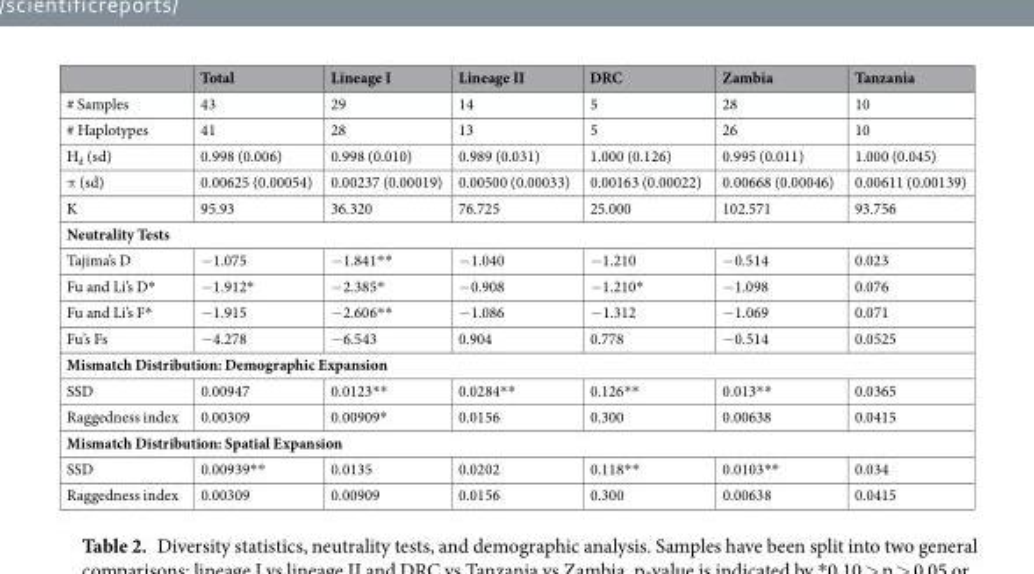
<table><thead><tr><td></td><td>Total</td><td>Lineage I</td><td>Lineage II</td><td>DRC</td><td>Zambia</td><td>Tanzania</td></tr></thead><tbody><tr><td># Samples</td><td>43</td><td>29</td><td>14</td><td>5</td><td>28</td><td>10</td></tr><tr><td># Haplotypes</td><td>41</td><td>28</td><td>13</td><td>5</td><td>26</td><td>10</td></tr><tr><td>H<sub>d</sub> (sd)</td><td>0.998 (0.006)</td><td>0.998 (0.010)</td><td>0.989 (0.031)</td><td>1.000 (0.126)</td><td>0.995 (0.011)</td><td>1.000 (0.045)</td></tr><tr><td>π (sd)</td><td>0.00625 (0.00054)</td><td>0.00237 (0.00019)</td><td>0.00500 (0.00033)</td><td>0.00163 (0.00022)</td><td>0.00668 (0.00046)</td><td>0.00611 (0.00139)</td></tr><tr><td>K</td><td>95.93</td><td>36.320</td><td>76.725</td><td>25.000</td><td>102.571</td><td>93.756</td></tr><tr><td colspan="7">Neutrality Tests</td></tr><tr><td>Tajima’s D</td><td>−1.075</td><td>−1.841**</td><td>−1.040</td><td>−1.210</td><td>−0.514</td><td>0.023</td></tr><tr><td>Fu and Li’s D*</td><td>−1.912*</td><td>−2.385*</td><td>−0.908</td><td>−1.210*</td><td>−1.098</td><td>0.076</td></tr><tr><td>Fu and Li’s F*</td><td>−1.915</td><td>−2.606**</td><td>−1.086</td><td>−1.312</td><td>−1.069</td><td>0.071</td></tr><tr><td>Fu’s Fs</td><td>−4.278</td><td>−6.543</td><td>0.904</td><td>0.778</td><td>−0.514</td><td>0.0525</td></tr><tr><td colspan="7">Mismatch Distribution: Demographic Expansion</td></tr><tr><td>SSD</td><td>0.00947</td><td>0.0123**</td><td>0.0284**</td><td>0.126**</td><td>0.013**</td><td>0.0365</td></tr><tr><td>Raggedness index</td><td>0.00309</td><td>0.00909*</td><td>0.0156</td><td>0.300</td><td>0.00638</td><td>0.0415</td></tr><tr><td colspan="7">Mismatch Distribution: Spatial Expansion</td></tr><tr><td>SSD</td><td>0.00939**</td><td>0.0135</td><td>0.0202</td><td>0.118**</td><td>0.0103**</td><td>0.034</td></tr><tr><td>Raggedness index</td><td>0.00309</td><td>0.00909</td><td>0.0156</td><td>0.300</td><td>0.00638</td><td>0.0415</td></tr></tbody></table>